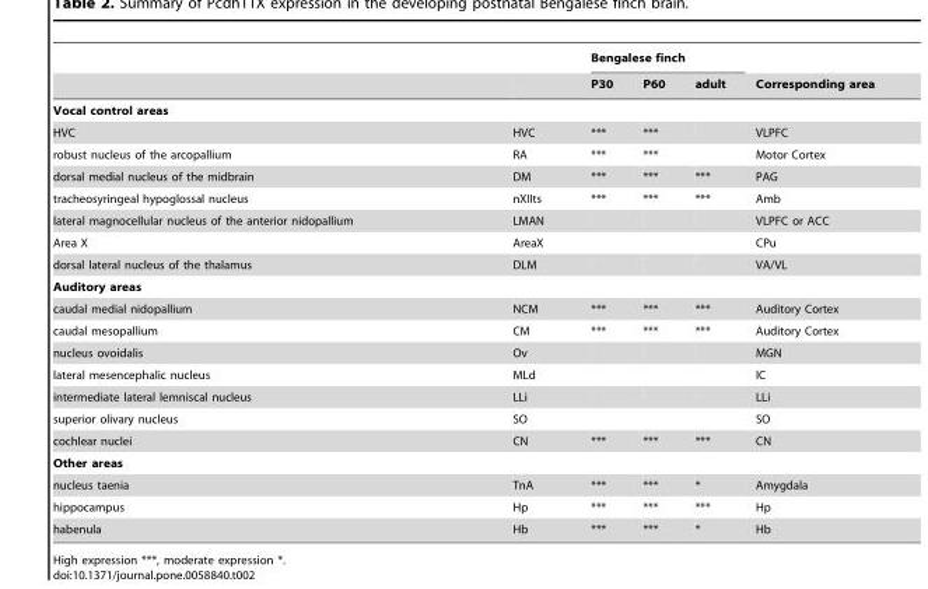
<table><thead><tr><td rowspan="2"></td><td rowspan="2"></td><td colspan="3">Bengalese finch</td><td rowspan="2">Corresponding area</td></tr><tr><td>P30</td><td>P60</td><td>adult</td></tr></thead><tbody><tr><td colspan="6">Vocal control areas</td></tr><tr><td>HVC</td><td>HVC</td><td>***</td><td>***</td><td></td><td>VLPFC</td></tr><tr><td>robust nucleus of the arcopallium</td><td>RA</td><td>***</td><td>***</td><td></td><td>Motor Cortex</td></tr><tr><td>dorsal medial nucleus of the midbrain</td><td>DM</td><td>***</td><td>***</td><td>***</td><td>PAG</td></tr><tr><td>tracheosyringeal hypoglossal nucleus</td><td>nXIIts</td><td>***</td><td>***</td><td>***</td><td>Amb</td></tr><tr><td>lateral magnocellular nucleus of the anterior nidopallium</td><td>LMAN</td><td></td><td></td><td></td><td>VLPFC or ACC</td></tr><tr><td>Area X</td><td>AreaX</td><td></td><td></td><td></td><td>CPu</td></tr><tr><td>dorsal lateral nucleus of the thalamus</td><td>DLM</td><td></td><td></td><td></td><td>VA/VL</td></tr><tr><td colspan="6">Auditory areas</td></tr><tr><td>caudal medial nidopallium</td><td>NCM</td><td>***</td><td>***</td><td>***</td><td>Auditory Cortex</td></tr><tr><td>caudal mesopallium</td><td>CM</td><td>***</td><td>***</td><td>***</td><td>Auditory Cortex</td></tr><tr><td>nucleus ovoidalis</td><td>Ov</td><td></td><td></td><td></td><td>MGN</td></tr><tr><td>lateral mesencephalic nucleus</td><td>MLd</td><td></td><td></td><td></td><td>IC</td></tr><tr><td>intermediate lateral lemniscal nucleus</td><td>LLi</td><td></td><td></td><td></td><td>LLi</td></tr><tr><td>superior olivary nucleus</td><td>SO</td><td></td><td></td><td></td><td>SO</td></tr><tr><td>cochlear nuclei</td><td>CN</td><td>***</td><td>***</td><td>***</td><td>CN</td></tr><tr><td colspan="6">Other areas</td></tr><tr><td>nucleus taenia</td><td>TnA</td><td>***</td><td>***</td><td>*</td><td>Amygdala</td></tr><tr><td>hippocampus</td><td>Hp</td><td>***</td><td>***</td><td>***</td><td>Hp</td></tr><tr><td>habenula</td><td>Hb</td><td>***</td><td>***</td><td>*</td><td>Hb</td></tr></tbody></table>